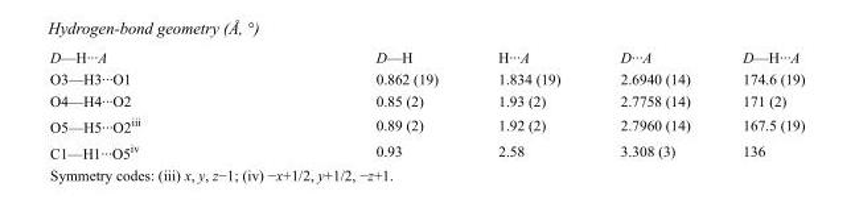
<table><tbody><tr><td>D—H···A</td><td>D—H</td><td>H···A</td><td>D···A</td><td>D—H···A</td></tr><tr><td>O3—H3···O1</td><td>0.862 (19)</td><td>1.834 (19)</td><td>2.6940 (14)</td><td>174.6 (19)</td></tr><tr><td>O4—H4···O2</td><td>0.85 (2)</td><td>1.93 (2)</td><td>2.7758 (14)</td><td>171 (2)</td></tr><tr><td>O5—H5···O2<sup>iii</sup></td><td>0.89 (2)</td><td>1.92 (2)</td><td>2.7960 (14)</td><td>167.5 (19)</td></tr><tr><td>C1—H1···O5<sup>iv</sup></td><td>0.93</td><td>2.58</td><td>3.308 (3)</td><td>136</td></tr></tbody></table>